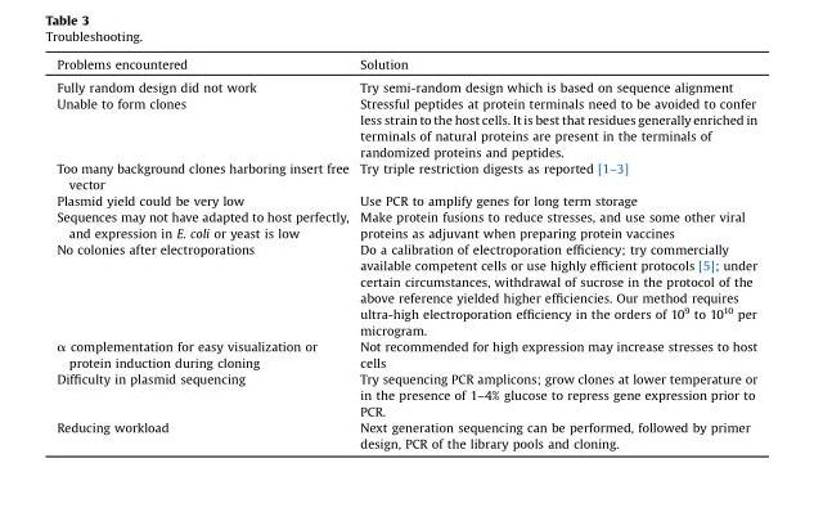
<table><thead><tr><td>Problems encountered</td><td>Solution</td></tr></thead><tbody><tr><td>Fully random design did not work</td><td>Try semi-random design which is based on sequence alignment</td></tr><tr><td>Unable to form clones</td><td>Stressful peptides at protein terminals need to be avoided to confer less strain to the host cells. It is best that residues generally enriched in terminals of natural proteins are present in the terminals of randomized proteins and peptides.</td></tr><tr><td>Too many background clones harboring insert free vector</td><td>Try triple restriction digests as reported [1–3]</td></tr><tr><td>Plasmid yield could be very low</td><td>Use PCR to amplify genes for long term storage</td></tr><tr><td>Sequences may not have adapted to host perfectly, and expression in E. coli or yeast is low</td><td>Make protein fusions to reduce stresses, and use some other viral proteins as adjuvant when preparing protein vaccines</td></tr><tr><td>No colonies after electroporations</td><td>Do a calibration of electroporation efficiency; try commercially available competent cells or use highly efficient protocols [5]; under certain circumstances, withdrawal of sucrose in the protocol of the above reference yielded higher efficiencies. Our method requires ultra-high electroporation efficiency in the orders of 10<sup>9</sup> to 10<sup>10</sup> per microgram.</td></tr><tr><td>α complementation for easy visualization or protein induction during cloning</td><td>Not recommended for high expression may increase stresses to host cells</td></tr><tr><td>Difficulty in plasmid sequencing</td><td>Try sequencing PCR amplicons; grow clones at lower temperature or in the presence of 1–4% glucose to repress gene expression prior to PCR.</td></tr><tr><td>Reducing workload</td><td>Next generation sequencing can be performed, followed by primer design, PCR of the library pools and cloning.</td></tr></tbody></table>